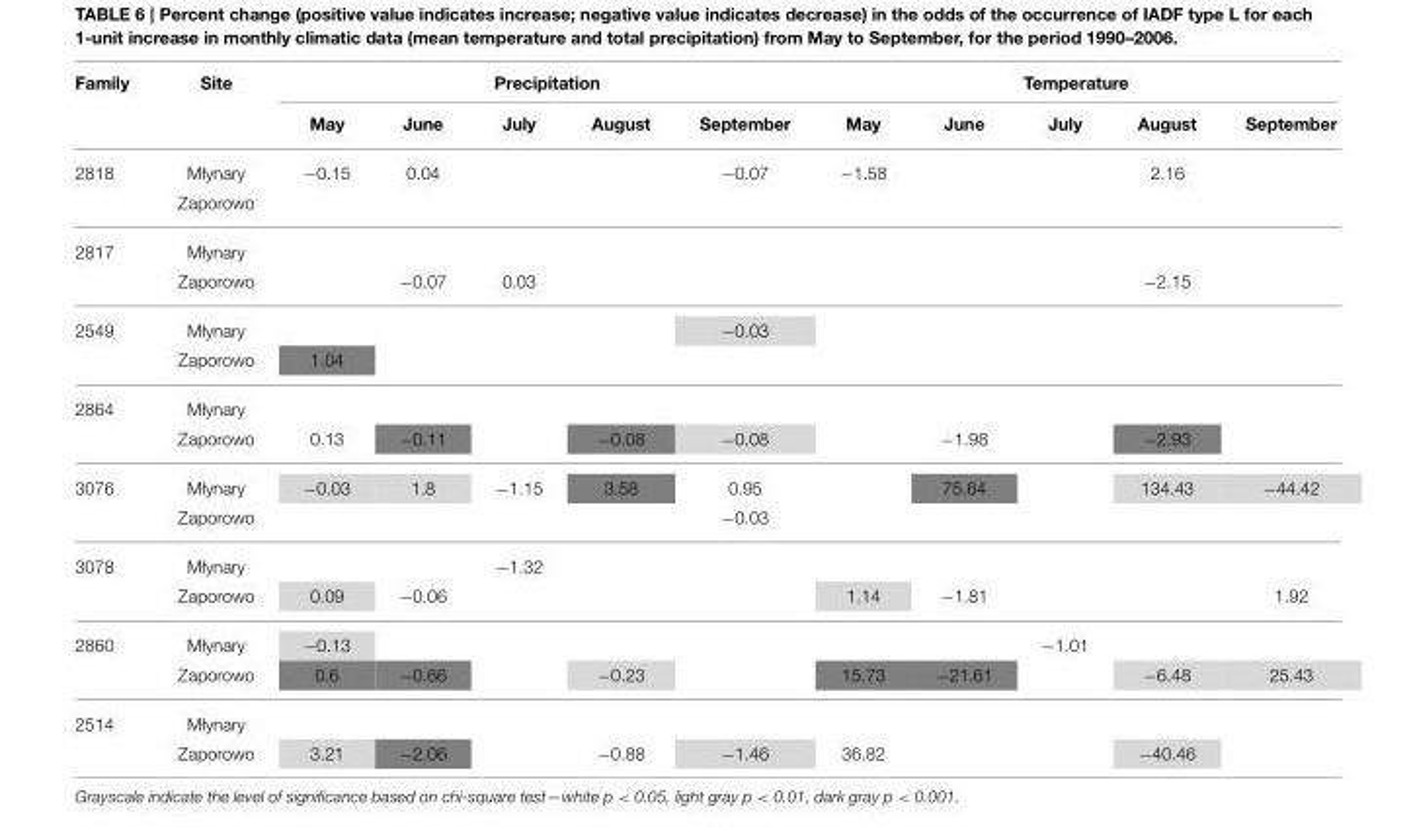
<table><thead><tr><td rowspan="2">Family</td><td rowspan="2">Site</td><td colspan="5">Precipitation</td><td colspan="5">Temperature</td></tr><tr><td>May</td><td>June</td><td>July</td><td>August</td><td>September</td><td>May</td><td>June</td><td>July</td><td>August</td><td>September</td></tr></thead><tbody><tr><td rowspan="2">2818</td><td>Młynary</td><td>−0.15</td><td>0.04</td><td></td><td></td><td>−0.07</td><td>−1.58</td><td></td><td></td><td>2.16</td><td></td></tr><tr><td>Zaporowo</td><td></td><td></td><td></td><td></td><td></td><td></td><td></td><td></td><td></td><td></td></tr><tr><td rowspan="2">2817</td><td>Młynary</td><td></td><td></td><td></td><td></td><td></td><td></td><td></td><td></td><td></td><td></td></tr><tr><td>Zaporowo</td><td></td><td>−0.07</td><td>0.03</td><td></td><td></td><td></td><td></td><td></td><td>−2.15</td><td></td></tr><tr><td rowspan="2">2549</td><td>Młynary</td><td></td><td></td><td></td><td></td><td>−0.03</td><td></td><td></td><td></td><td></td><td></td></tr><tr><td>Zaporowo</td><td>1.04</td><td></td><td></td><td></td><td></td><td></td><td></td><td></td><td></td><td></td></tr><tr><td rowspan="2">2864</td><td>Młynary</td><td></td><td></td><td></td><td></td><td></td><td></td><td></td><td></td><td></td><td></td></tr><tr><td>Zaporowo</td><td>0.13</td><td>−0.11</td><td></td><td>−0.08</td><td>−0.08</td><td></td><td>−1.98</td><td></td><td>−2.93</td><td></td></tr><tr><td rowspan="2">3076</td><td>Młynary</td><td>−0.03</td><td>1.8</td><td>−1.15</td><td>3.58</td><td>0.95</td><td></td><td>75.64</td><td></td><td>134.43</td><td>−44.42</td></tr><tr><td>Zaporowo</td><td></td><td></td><td></td><td></td><td>−0.03</td><td></td><td></td><td></td><td></td><td></td></tr><tr><td rowspan="2">3078</td><td>Młynary</td><td></td><td></td><td>−1.32</td><td></td><td></td><td></td><td></td><td></td><td></td><td></td></tr><tr><td>Zaporowo</td><td>0.09</td><td>−0.06</td><td></td><td></td><td></td><td>1.14</td><td>−1.81</td><td></td><td></td><td>1.92</td></tr><tr><td rowspan="2">2860</td><td>Młynary</td><td>−0.13</td><td></td><td></td><td></td><td></td><td></td><td></td><td>−1.01</td><td></td><td></td></tr><tr><td>Zaporowo</td><td>0.6</td><td>−0.66</td><td></td><td>−0.23</td><td></td><td>15.73</td><td>−21.61</td><td></td><td>−6.48</td><td>25.43</td></tr><tr><td rowspan="2">2514</td><td>Młynary</td><td></td><td></td><td></td><td></td><td></td><td></td><td></td><td></td><td></td><td></td></tr><tr><td>Zaporowo</td><td>3.21</td><td>−2.06</td><td></td><td>−0.88</td><td>−1.46</td><td>36.82</td><td></td><td></td><td>−40.46</td><td></td></tr></tbody></table>